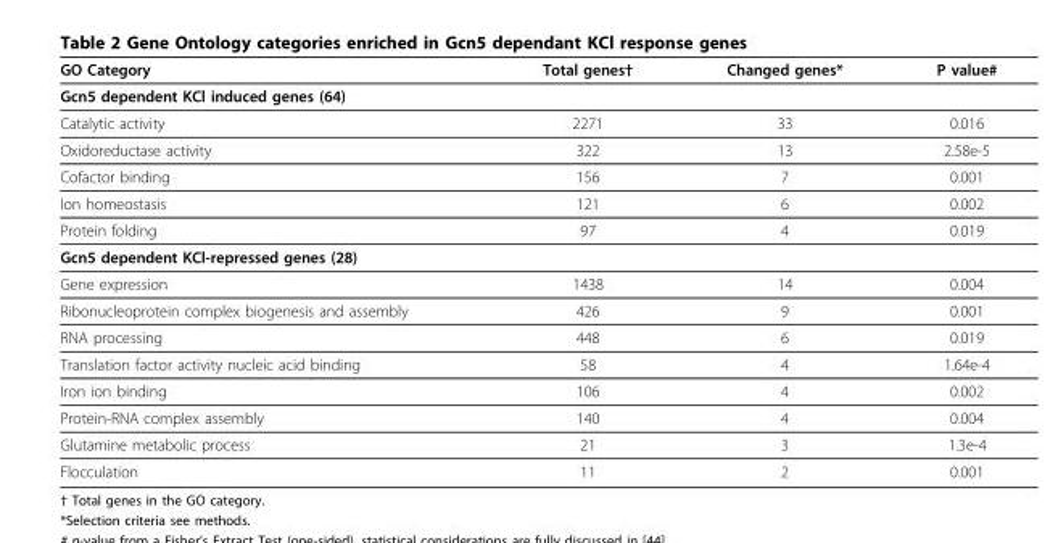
<table><thead><tr><td>GO Category</td><td>Total genes†</td><td>Changed genes*</td><td>P value#</td></tr></thead><tbody><tr><td colspan="4">Gcn5 dependent KCl induced genes (64)</td></tr><tr><td>Catalytic activity</td><td>2271</td><td>33</td><td>0.016</td></tr><tr><td>Oxidoreductase activity</td><td>322</td><td>13</td><td>2.58e-5</td></tr><tr><td>Cofactor binding</td><td>156</td><td>7</td><td>0.001</td></tr><tr><td>Ion homeostasis</td><td>121</td><td>6</td><td>0.002</td></tr><tr><td>Protein folding</td><td>97</td><td>4</td><td>0.019</td></tr><tr><td colspan="4">Gcn5 dependent KCl-repressed genes (28)</td></tr><tr><td>Gene expression</td><td>1438</td><td>14</td><td>0.004</td></tr><tr><td>Ribonucleoprotein complex biogenesis and assembly</td><td>426</td><td>9</td><td>0.001</td></tr><tr><td>RNA processing</td><td>448</td><td>6</td><td>0.019</td></tr><tr><td>Translation factor activity nucleic acid binding</td><td>58</td><td>4</td><td>1.64e-4</td></tr><tr><td>Iron ion binding</td><td>106</td><td>4</td><td>0.002</td></tr><tr><td>Protein-RNA complex assembly</td><td>140</td><td>4</td><td>0.004</td></tr><tr><td>Glutamine metabolic process</td><td>21</td><td>3</td><td>1.3e-4</td></tr><tr><td>Flocculation</td><td>11</td><td>2</td><td>0.001</td></tr></tbody></table>